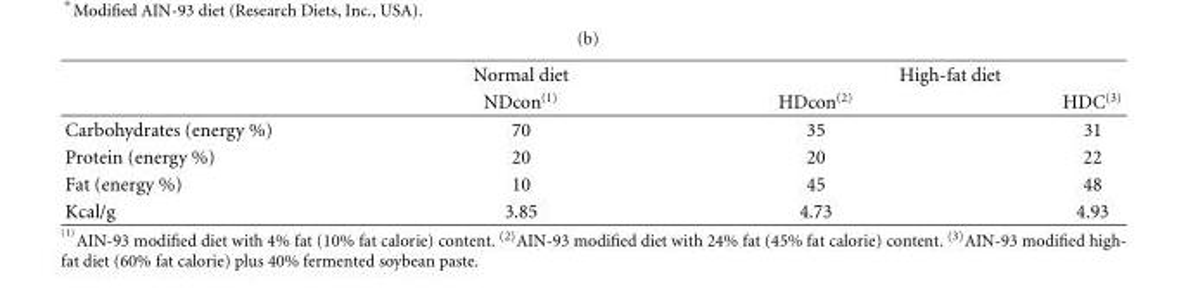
<table><thead><tr><td rowspan="2"></td><td rowspan="2">Normal diet NDcon(1)</td><td colspan="2">High-fat diet</td></tr><tr><td>HDcon(2)</td><td>HDC(3)</td></tr></thead><tbody><tr><td>Carbohydrates (energy %)</td><td>70</td><td>35</td><td>31</td></tr><tr><td>Protein (energy %)</td><td>20</td><td>20</td><td>22</td></tr><tr><td>Fat (energy %)</td><td>10</td><td>45</td><td>48</td></tr><tr><td>Kcal/g</td><td>3.85</td><td>4.73</td><td>4.93</td></tr></tbody></table>